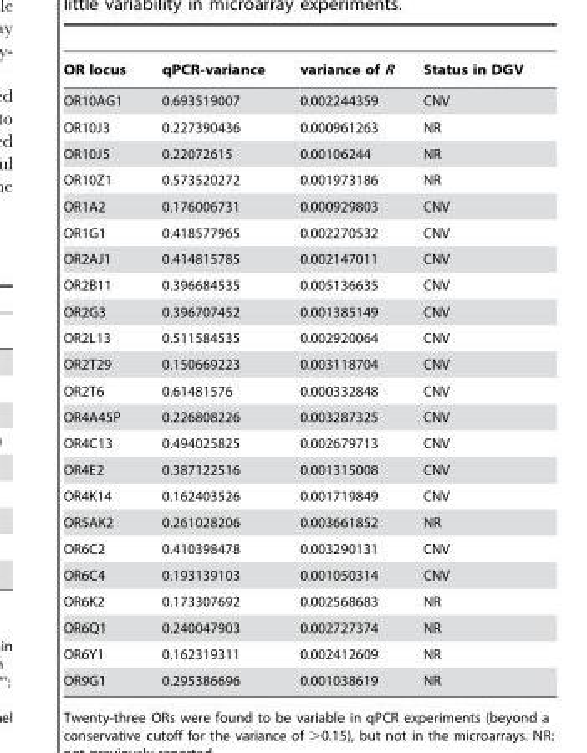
<table><thead><tr><td>OR locus</td><td>qPCR-variance</td><td>variance of R</td><td>Status in DGV</td></tr></thead><tbody><tr><td>OR10AG1</td><td>0.693519007</td><td>0.002244359</td><td>CNV</td></tr><tr><td>OR10J3</td><td>0.227390436</td><td>0.000961263</td><td>NR</td></tr><tr><td>OR10J5</td><td>0.22072615</td><td>0.00106244</td><td>NR</td></tr><tr><td>OR10Z1</td><td>0.573520272</td><td>0.001973186</td><td>NR</td></tr><tr><td>OR1A2</td><td>0.176006731</td><td>0.000929803</td><td>CNV</td></tr><tr><td>OR1G1</td><td>0.418577965</td><td>0.002270532</td><td>CNV</td></tr><tr><td>OR2AJ1</td><td>0.414815785</td><td>0.002147011</td><td>CNV</td></tr><tr><td>OR2B11</td><td>0.396684535</td><td>0.005136635</td><td>CNV</td></tr><tr><td>OR2G3</td><td>0.396707452</td><td>0.001385149</td><td>CNV</td></tr><tr><td>OR2L13</td><td>0.511584535</td><td>0.002920064</td><td>CNV</td></tr><tr><td>OR2T29</td><td>0.150669223</td><td>0.003118704</td><td>CNV</td></tr><tr><td>OR2T6</td><td>0.61481576</td><td>0.000332848</td><td>CNV</td></tr><tr><td>OR4A45P</td><td>0.226808226</td><td>0.003287325</td><td>CNV</td></tr><tr><td>OR4C13</td><td>0.494025825</td><td>0.002679713</td><td>CNV</td></tr><tr><td>OR4E2</td><td>0.387122516</td><td>0.001315008</td><td>CNV</td></tr><tr><td>OR4K14</td><td>0.162403526</td><td>0.001719849</td><td>CNV</td></tr><tr><td>OR5AK2</td><td>0.261028206</td><td>0.003661852</td><td>NR</td></tr><tr><td>OR6C2</td><td>0.410398478</td><td>0.003290131</td><td>CNV</td></tr><tr><td>OR6C4</td><td>0.193139103</td><td>0.001050314</td><td>CNV</td></tr><tr><td>OR6K2</td><td>0.173307692</td><td>0.002568683</td><td>NR</td></tr><tr><td>OR6Q1</td><td>0.240047903</td><td>0.002727374</td><td>NR</td></tr><tr><td>OR6Y1</td><td>0.162319311</td><td>0.002412609</td><td>NR</td></tr><tr><td>OR9G1</td><td>0.295386696</td><td>0.001038619</td><td>NR</td></tr></tbody></table>